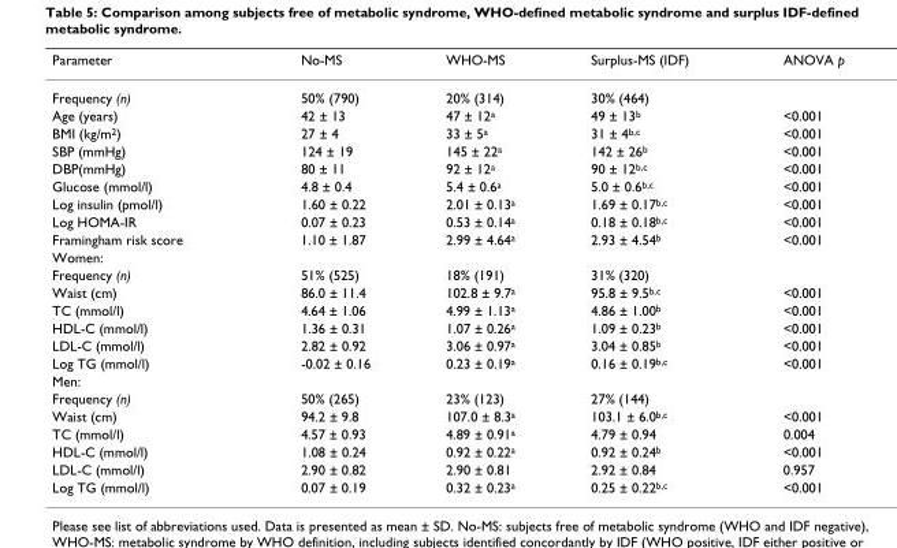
<table><thead><tr><td>Parameter</td><td>No-MS</td><td>WHO-MS</td><td>Surplus-MS (IDF)</td><td>ANOVA p</td></tr></thead><tbody><tr><td>Frequency (n)</td><td>50% (790)</td><td>20% (314)</td><td>30% (464)</td><td></td></tr><tr><td>Age (years)</td><td>42 ± 13</td><td>47 ± 12<sup>a</sup></td><td>49 ± 13<sup>b</sup></td><td>&lt;0.001</td></tr><tr><td>BMI (kg/m<sup>2</sup>)</td><td>27 ± 4</td><td>33 ± 5<sup>a</sup></td><td>31 ± 4<sup>b,c</sup></td><td>&lt;0.001</td></tr><tr><td>SBP (mmHg)</td><td>124 ± 19</td><td>145 ± 22<sup>a</sup></td><td>142 ± 26<sup>b</sup></td><td>&lt;0.001</td></tr><tr><td>DBP(mmHg)</td><td>80 ± 11</td><td>92 ± 12<sup>a</sup></td><td>90 ± 12<sup>b,c</sup></td><td>&lt;0.001</td></tr><tr><td>Glucose (mmol/l)</td><td>4.8 ± 0.4</td><td>5.4 ± 0.6<sup>a</sup></td><td>5.0 ± 0.6<sup>b,c</sup></td><td>&lt;0.001</td></tr><tr><td>Log insulin (pmol/l)</td><td>1.60 ± 0.22</td><td>2.01 ± 0.13<sup>a</sup></td><td>1.69 ± 0.17<sup>b,c</sup></td><td>&lt;0.001</td></tr><tr><td>Log HOMA-IR</td><td>0.07 ± 0.23</td><td>0.53 ± 0.14<sup>a</sup></td><td>0.18 ± 0.18<sup>b,c</sup></td><td>&lt;0.001</td></tr><tr><td>Framingham risk score</td><td>1.10 ± 1.87</td><td>2.99 ± 4.64<sup>a</sup></td><td>2.93 ± 4.54<sup>b</sup></td><td>&lt;0.001</td></tr><tr><td colspan="5">Women:</td></tr><tr><td>Frequency (n)</td><td>51% (525)</td><td>18% (191)</td><td>31% (320)</td><td></td></tr><tr><td>Waist (cm)</td><td>86.0 ± 11.4</td><td>102.8 ± 9.7<sup>a</sup></td><td>95.8 ± 9.5<sup>b,c</sup></td><td>&lt;0.001</td></tr><tr><td>TC (mmol/l)</td><td>4.64 ± 1.06</td><td>4.99 ± 1.13<sup>a</sup></td><td>4.86 ± 1.00<sup>b</sup></td><td>&lt;0.001</td></tr><tr><td>HDL-C (mmol/l)</td><td>1.36 ± 0.31</td><td>1.07 ± 0.26<sup>a</sup></td><td>1.09 ± 0.23<sup>b</sup></td><td>&lt;0.001</td></tr><tr><td>LDL-C (mmol/l)</td><td>2.82 ± 0.92</td><td>3.06 ± 0.97<sup>a</sup></td><td>3.04 ± 0.85<sup>b</sup></td><td>&lt;0.001</td></tr><tr><td>Log TG (mmol/l)</td><td>-0.02 ± 0.16</td><td>0.23 ± 0.19<sup>a</sup></td><td>0.16 ± 0.19<sup>b,c</sup></td><td>&lt;0.001</td></tr><tr><td colspan="5">Men:</td></tr><tr><td>Frequency (n)</td><td>50% (265)</td><td>23% (123)</td><td>27% (144)</td><td></td></tr><tr><td>Waist (cm)</td><td>94.2 ± 9.8</td><td>107.0 ± 8.3<sup>a</sup></td><td>103.1 ± 6.0<sup>b,c</sup></td><td>&lt;0.001</td></tr><tr><td>TC (mmol/l)</td><td>4.57 ± 0.93</td><td>4.89 ± 0.91<sup>a</sup></td><td>4.79 ± 0.94</td><td>0.004</td></tr><tr><td>HDL-C (mmol/l)</td><td>1.08 ± 0.24</td><td>0.92 ± 0.22<sup>a</sup></td><td>0.92 ± 0.24<sup>b</sup></td><td>&lt;0.001</td></tr><tr><td>LDL-C (mmol/l)</td><td>2.90 ± 0.82</td><td>2.90 ± 0.81</td><td>2.92 ± 0.84</td><td>0.957</td></tr><tr><td>Log TG (mmol/l)</td><td>0.07 ± 0.19</td><td>0.32 ± 0.23<sup>a</sup></td><td>0.25 ± 0.22<sup>b,c</sup></td><td>&lt;0.001</td></tr></tbody></table>